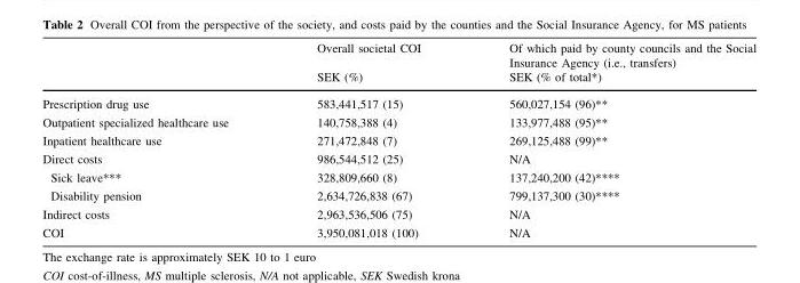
<table><thead><tr><td rowspan="2"></td><td rowspan="2">Overall societal COI SEK (%)</td><td rowspan="2">Of which paid by county councils and the Social Insurance Agency (i.e., transfers) SEK (% of total*)</td></tr><tr></tr></thead><tbody><tr><td>Prescription drug use</td><td>583,441,517 (15)</td><td>560,027,154 (96)**</td></tr><tr><td>Outpatient specialized healthcare use</td><td>140,758,388 (4)</td><td>133,977,488 (95)**</td></tr><tr><td>Inpatient healthcare use</td><td>271,472,848 (7)</td><td>269,125,488 (99)**</td></tr><tr><td>Direct costs</td><td>986,544,512 (25)</td><td>N/A</td></tr><tr><td>Sick leave***</td><td>328,809,660 (8)</td><td>137,240,200 (42)****</td></tr><tr><td>Disability pension</td><td>2,634,726,838 (67)</td><td>799,137,300 (30)****</td></tr><tr><td>Indirect costs</td><td>2,963,536,506 (75)</td><td>N/A</td></tr><tr><td>COI</td><td>3,950,081,018 (100)</td><td>N/A</td></tr></tbody></table>